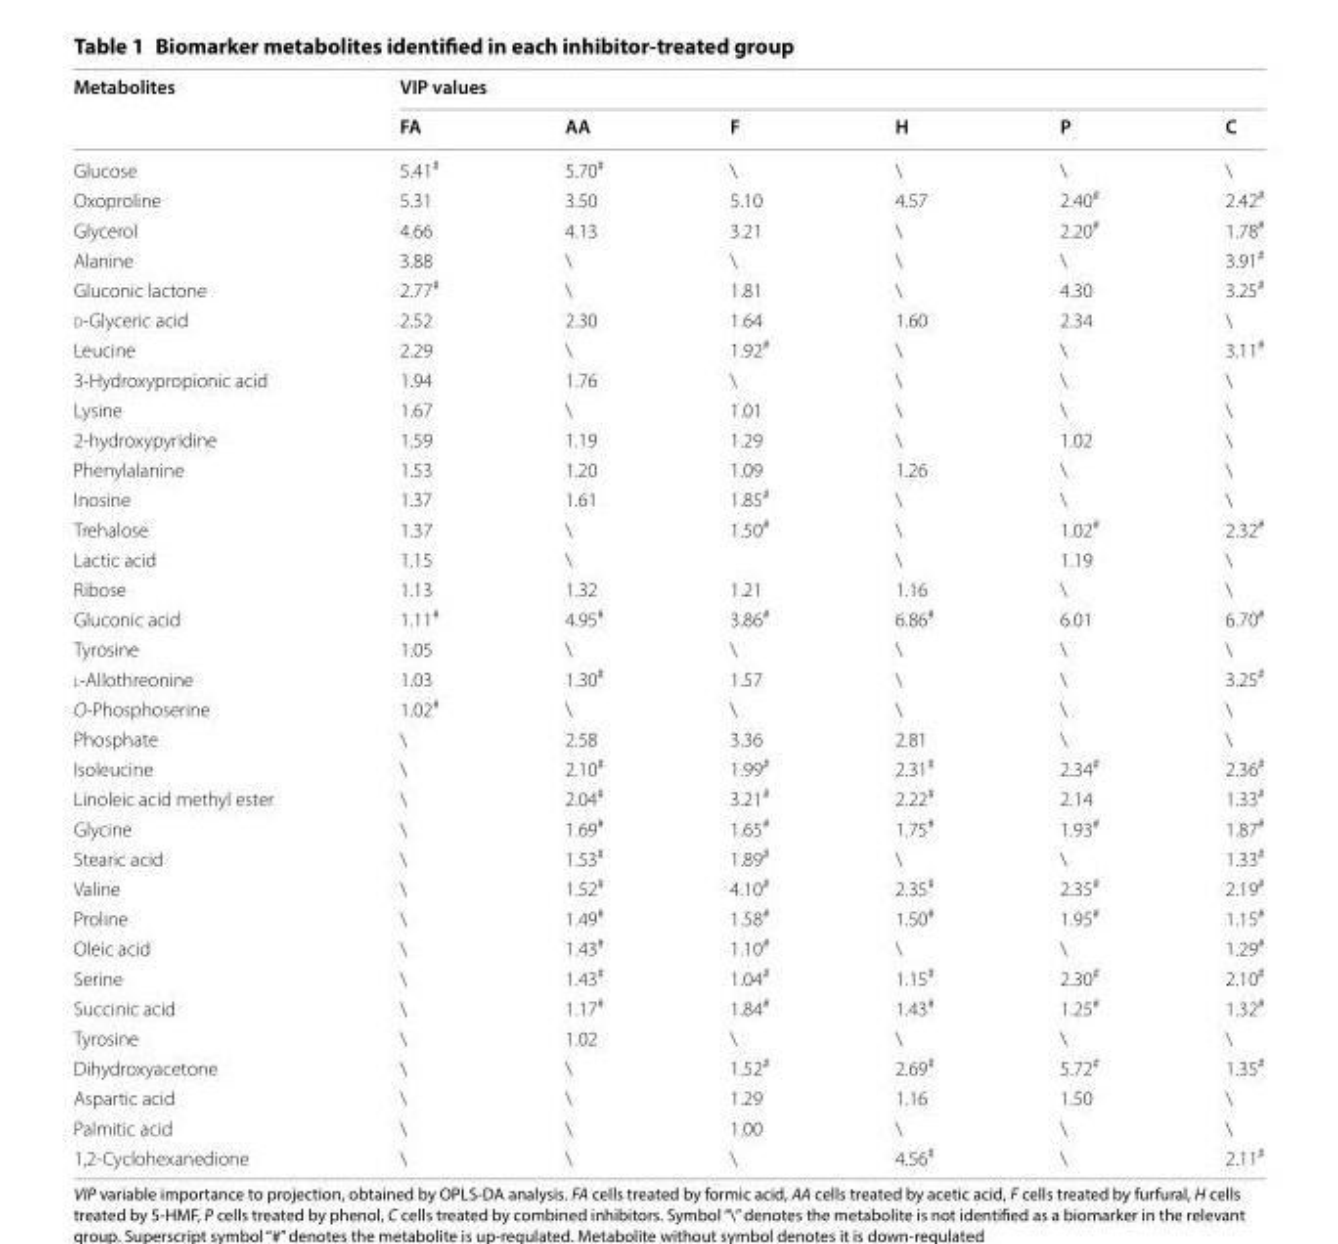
<table><thead><tr><td rowspan="2">Metabolites</td><td colspan="6">VIP values</td></tr><tr><td>FA</td><td>AA</td><td>F</td><td>H</td><td>P</td><td>C</td></tr></thead><tbody><tr><td>Glucose</td><td>5.41<sup>#</sup></td><td>5.70<sup>#</sup></td><td>\</td><td>\</td><td>\</td><td>\</td></tr><tr><td>Oxoproline</td><td>5.31</td><td>3.50</td><td>5.10</td><td>4.57</td><td>2.40<sup>#</sup></td><td>2.42<sup>#</sup></td></tr><tr><td>Glycerol</td><td>4.66</td><td>4.13</td><td>3.21</td><td>\</td><td>2.20<sup>#</sup></td><td>1.78<sup>#</sup></td></tr><tr><td>Alanine</td><td>3.88</td><td>\</td><td>\</td><td>\</td><td>\</td><td>3.91<sup>#</sup></td></tr><tr><td>Gluconic lactone</td><td>2.77<sup>#</sup></td><td>\</td><td>1.81</td><td>\</td><td>4.30</td><td>3.25<sup>#</sup></td></tr><tr><td>d-Glyceric acid</td><td>2.52</td><td>2.30</td><td>1.64</td><td>1.60</td><td>2.34</td><td>\</td></tr><tr><td>Leucine</td><td>2.29</td><td>\</td><td>1.92<sup>#</sup></td><td>\</td><td>\</td><td>3.11<sup>#</sup></td></tr><tr><td>3-Hydroxypropionic acid</td><td>1.94</td><td>1.76</td><td>\</td><td>\</td><td>\</td><td>\</td></tr><tr><td>Lysine</td><td>1.67</td><td>\</td><td>1.01</td><td>\</td><td>\</td><td>\</td></tr><tr><td>2-hydroxypyridine</td><td>1.59</td><td>1.19</td><td>1.29</td><td>\</td><td>1.02</td><td>\</td></tr><tr><td>Phenylalanine</td><td>1.53</td><td>1.20</td><td>1.09</td><td>1.26</td><td>\</td><td>\</td></tr><tr><td>Inosine</td><td>1.37</td><td>1.61</td><td>1.85<sup>#</sup></td><td>\</td><td>\</td><td>\</td></tr><tr><td>Trehalose</td><td>1.37</td><td>\</td><td>1.50<sup>#</sup></td><td>\</td><td>1.02<sup>#</sup></td><td>2.32<sup>#</sup></td></tr><tr><td>Lactic acid</td><td>1.15</td><td>\</td><td></td><td>\</td><td>1.19</td><td>\</td></tr><tr><td>Ribose</td><td>1.13</td><td>1.32</td><td>1.21</td><td>1.16</td><td>\</td><td>\</td></tr><tr><td>Gluconic acid</td><td>1.11<sup>#</sup></td><td>4.95<sup>#</sup></td><td>3.86<sup>#</sup></td><td>6.86<sup>#</sup></td><td>6.01</td><td>6.70<sup>#</sup></td></tr><tr><td>Tyrosine</td><td>1.05</td><td>\</td><td>\</td><td>\</td><td>\</td><td>\</td></tr><tr><td>l-Allothreonine</td><td>1.03</td><td>1.30<sup>#</sup></td><td>1.57</td><td>\</td><td>\</td><td>3.25<sup>#</sup></td></tr><tr><td>O-Phosphoserine</td><td>1.02<sup>#</sup></td><td>\</td><td>\</td><td>\</td><td>\</td><td>\</td></tr><tr><td>Phosphate</td><td>\</td><td>2.58</td><td>3.36</td><td>2.81</td><td>\</td><td>\</td></tr><tr><td>Isoleucine</td><td>\</td><td>2.10<sup>#</sup></td><td>1.99<sup>#</sup></td><td>2.31<sup>#</sup></td><td>2.34<sup>#</sup></td><td>2.36<sup>#</sup></td></tr><tr><td>Linoleic acid methyl ester</td><td>\</td><td>2.04<sup>#</sup></td><td>3.21<sup>#</sup></td><td>2.22<sup>#</sup></td><td>2.14</td><td>1.33<sup>#</sup></td></tr><tr><td>Glycine</td><td>\</td><td>1.69<sup>#</sup></td><td>1.65<sup>#</sup></td><td>1.75<sup>#</sup></td><td>1.93<sup>#</sup></td><td>1.87<sup>#</sup></td></tr><tr><td>Stearic acid</td><td>\</td><td>1.53<sup>#</sup></td><td>1.89<sup>#</sup></td><td>\</td><td>\</td><td>1.33<sup>#</sup></td></tr><tr><td>Valine</td><td>\</td><td>1.52<sup>#</sup></td><td>4.10<sup>#</sup></td><td>2.35<sup>#</sup></td><td>2.35<sup>#</sup></td><td>2.19<sup>#</sup></td></tr><tr><td>Proline</td><td>\</td><td>1.49<sup>#</sup></td><td>1.58<sup>#</sup></td><td>1.50<sup>#</sup></td><td>1.95<sup>#</sup></td><td>1.15<sup>#</sup></td></tr><tr><td>Oleic acid</td><td>\</td><td>1.43<sup>#</sup></td><td>1.10<sup>#</sup></td><td>\</td><td>\</td><td>1.29<sup>#</sup></td></tr><tr><td>Serine</td><td>\</td><td>1.43<sup>#</sup></td><td>1.04<sup>#</sup></td><td>1.15<sup>#</sup></td><td>2.30<sup>#</sup></td><td>2.10<sup>#</sup></td></tr><tr><td>Succinic acid</td><td>\</td><td>1.17<sup>#</sup></td><td>1.84<sup>#</sup></td><td>1.43<sup>#</sup></td><td>1.25<sup>#</sup></td><td>1.32<sup>#</sup></td></tr><tr><td>Tyrosine</td><td>\</td><td>1.02</td><td>\</td><td>\</td><td>\</td><td>\</td></tr><tr><td>Dihydroxyacetone</td><td>\</td><td>\</td><td>1.52<sup>#</sup></td><td>2.69<sup>#</sup></td><td>5.72<sup>#</sup></td><td>1.35<sup>#</sup></td></tr><tr><td>Aspartic acid</td><td>\</td><td>\</td><td>1.29</td><td>1.16</td><td>1.50</td><td>\</td></tr><tr><td>Palmitic acid</td><td>\</td><td>\</td><td>1.00</td><td>\</td><td>\</td><td>\</td></tr><tr><td>1,2-Cyclohexanedione</td><td>\</td><td>\</td><td>\</td><td>4.56<sup>#</sup></td><td>\</td><td>2.11<sup>#</sup></td></tr></tbody></table>